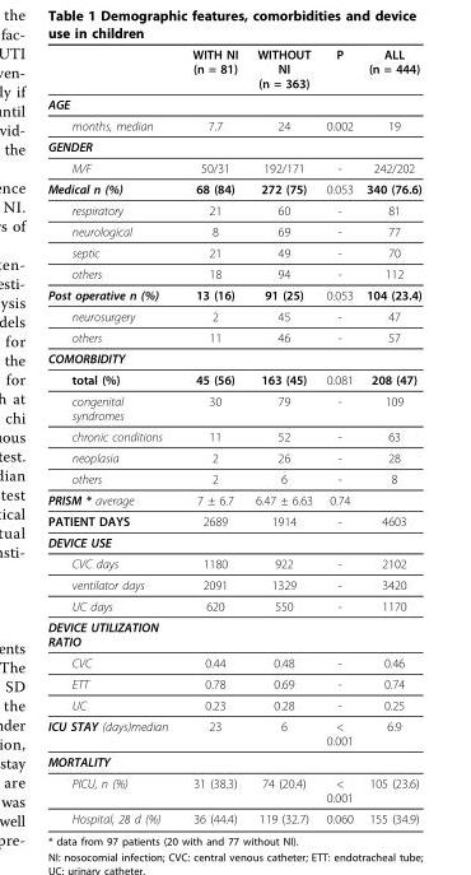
<table><thead><tr><td></td><td>WITH NI (n = 81)</td><td>WITHOUT NI (n = 363)</td><td>P</td><td>ALL (n = 444)</td></tr></thead><tbody><tr><td colspan="5">AGE</td></tr><tr><td>months, median</td><td>7.7</td><td>24</td><td>0.002</td><td>19</td></tr><tr><td colspan="5">GENDER</td></tr><tr><td>M/F</td><td>50/31</td><td>192/171</td><td>-</td><td>242/202</td></tr><tr><td>Medical n (%)</td><td>68 (84)</td><td>272 (75)</td><td>0.053</td><td>340 (76.6)</td></tr><tr><td>respiratory</td><td>21</td><td>60</td><td>-</td><td>81</td></tr><tr><td>neurological</td><td>8</td><td>69</td><td>-</td><td>77</td></tr><tr><td>septic</td><td>21</td><td>49</td><td>-</td><td>70</td></tr><tr><td>others</td><td>18</td><td>94</td><td>-</td><td>112</td></tr><tr><td>Post operative n (%)</td><td>13 (16)</td><td>91 (25)</td><td>0.053</td><td>104 (23.4)</td></tr><tr><td>neurosurgery</td><td>2</td><td>45</td><td>-</td><td>47</td></tr><tr><td>others</td><td>11</td><td>46</td><td>-</td><td>57</td></tr><tr><td colspan="5">COMORBIDITY</td></tr><tr><td>total (%)</td><td>45 (56)</td><td>163 (45)</td><td>0.081</td><td>208 (47)</td></tr><tr><td>congenital syndromes</td><td>30</td><td>79</td><td>-</td><td>109</td></tr><tr><td>chronic conditions</td><td>11</td><td>52</td><td>-</td><td>63</td></tr><tr><td>neoplasia</td><td>2</td><td>26</td><td>-</td><td>28</td></tr><tr><td>others</td><td>2</td><td>6</td><td>-</td><td>8</td></tr><tr><td>PRISM * average</td><td>7 ± 6.7</td><td>6.47 ± 6.63</td><td>0.74</td><td></td></tr><tr><td>PATIENT DAYS</td><td>2689</td><td>1914</td><td>-</td><td>4603</td></tr><tr><td colspan="5">DEVICE USE</td></tr><tr><td>CVC days</td><td>1180</td><td>922</td><td>-</td><td>2102</td></tr><tr><td>ventilator days</td><td>2091</td><td>1329</td><td>-</td><td>3420</td></tr><tr><td>UC days</td><td>620</td><td>550</td><td>-</td><td>1170</td></tr><tr><td colspan="5">DEVICE UTILIZATION RATIO</td></tr><tr><td>CVC</td><td>0.44</td><td>0.48</td><td>-</td><td>0.46</td></tr><tr><td>ETT</td><td>0.78</td><td>0.69</td><td>-</td><td>0.74</td></tr><tr><td>UC</td><td>0.23</td><td>0.28</td><td>-</td><td>0.25</td></tr><tr><td>ICU STAY (days)median</td><td>23</td><td>6</td><td>&lt; 0.001</td><td>6.9</td></tr><tr><td colspan="5">MORTALITY</td></tr><tr><td>PICU, n (%)</td><td>31 (38.3)</td><td>74 (20.4)</td><td>&lt; 0.001</td><td>105 (23.6)</td></tr><tr><td>Hospital, 28 d (%)</td><td>36 (44.4)</td><td>119 (32.7)</td><td>0.060</td><td>155 (34.9)</td></tr></tbody></table>